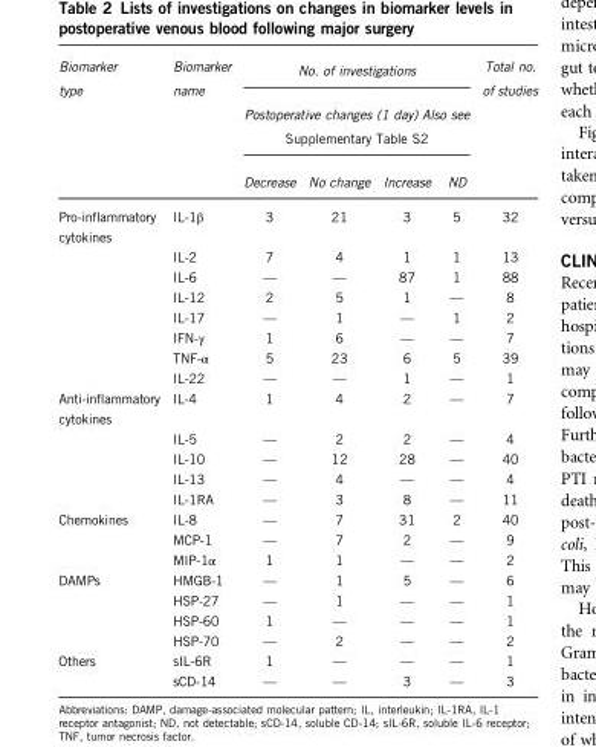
<table><thead><tr><td rowspan="3">Biomarker type</td><td rowspan="3">Biomarker name</td><td rowspan="2" colspan="4">No. of investigations Postoperative changes (1 day) Also see Supplementary Table S2</td><td rowspan="3">Total no. of studies</td></tr><tr></tr><tr><td>Decrease</td><td>No change</td><td>Increase</td><td>ND</td></tr></thead><tbody><tr><td rowspan="8">Pro-inflammatory cytokines</td><td>IL-1β</td><td>3</td><td>21</td><td>3</td><td>5</td><td>32</td></tr><tr><td>IL-2</td><td>7</td><td>4</td><td>1</td><td>1</td><td>13</td></tr><tr><td>IL-6</td><td>—</td><td>—</td><td>87</td><td>1</td><td>88</td></tr><tr><td>IL-12</td><td>2</td><td>5</td><td>1</td><td>—</td><td>8</td></tr><tr><td>IL-17</td><td>—</td><td>1</td><td>—</td><td>1</td><td>2</td></tr><tr><td>IFN-γ</td><td>1</td><td>6</td><td>—</td><td>—</td><td>7</td></tr><tr><td>TNF-α</td><td>5</td><td>23</td><td>6</td><td>5</td><td>39</td></tr><tr><td>IL-22</td><td>—</td><td>—</td><td>1</td><td>—</td><td>1</td></tr><tr><td rowspan="5">Anti-inflammatory cytokines</td><td>IL-4</td><td>1</td><td>4</td><td>2</td><td>—</td><td>7</td></tr><tr><td>IL-5</td><td>—</td><td>2</td><td>2</td><td>—</td><td>4</td></tr><tr><td>IL-10</td><td>—</td><td>12</td><td>28</td><td>—</td><td>40</td></tr><tr><td>IL-13</td><td>—</td><td>4</td><td>—</td><td>—</td><td>4</td></tr><tr><td>IL-1RA</td><td>—</td><td>3</td><td>8</td><td>—</td><td>11</td></tr><tr><td rowspan="3">Chemokines</td><td>IL-8</td><td>—</td><td>7</td><td>31</td><td>2</td><td>40</td></tr><tr><td>MCP-1</td><td>—</td><td>7</td><td>2</td><td>—</td><td>9</td></tr><tr><td>MIP-1α</td><td>1</td><td>1</td><td>—</td><td>—</td><td>2</td></tr><tr><td rowspan="4">DAMPs</td><td>HMGB-1</td><td>—</td><td>1</td><td>5</td><td>—</td><td>6</td></tr><tr><td>HSP-27</td><td>—</td><td>1</td><td>—</td><td>—</td><td>1</td></tr><tr><td>HSP-60</td><td>1</td><td>—</td><td>—</td><td>—</td><td>1</td></tr><tr><td>HSP-70</td><td>—</td><td>2</td><td>—</td><td>—</td><td>2</td></tr><tr><td rowspan="2">Others</td><td>sIL-6R</td><td>1</td><td>—</td><td>—</td><td>—</td><td>1</td></tr><tr><td>sCD-14</td><td>—</td><td>—</td><td>3</td><td>—</td><td>3</td></tr></tbody></table>